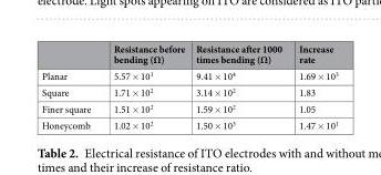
<table><thead><tr><td></td><td>Resistance before bending (Ω)</td><td>Resistance after 1000 times bending (Ω)</td><td>Increase rate</td></tr></thead><tbody><tr><td>Planar</td><td>5.57 × 10<sup>1</sup></td><td>9.41 × 10<sup>4</sup></td><td>1.69 × 10<sup>3</sup></td></tr><tr><td>Square</td><td>1.71 × 10<sup>2</sup></td><td>3.14 × 10<sup>2</sup></td><td>1.83</td></tr><tr><td>Finer square</td><td>1.51 × 10<sup>2</sup></td><td>1.59 × 10<sup>2</sup></td><td>1.05</td></tr><tr><td>Honeycomb</td><td>1.02 × 10<sup>2</sup></td><td>1.50 × 10<sup>3</sup></td><td>1.47 × 10<sup>1</sup></td></tr></tbody></table>